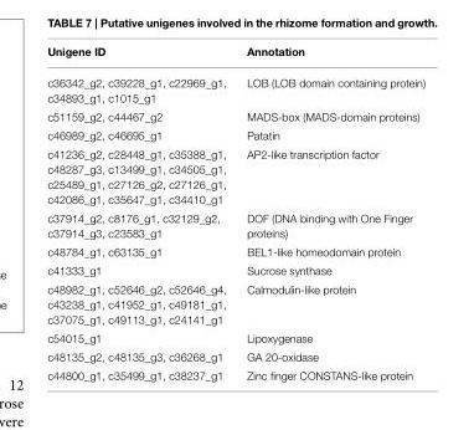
<table><thead><tr><td>Unigene ID</td><td>Annotation</td></tr></thead><tbody><tr><td>c36342_g2, c39228_g1, c22969_g1, c34893_g1, c1015_g1</td><td>LOB (LOB domain containing protein)</td></tr><tr><td>c51159_g2, c44467_g2</td><td>MADS-box (MADS-domain proteins)</td></tr><tr><td>c46989_g2, c46695_g1</td><td>Patatin</td></tr><tr><td>c41236_g2, c28448_g1, c35388_g1, c48287_g3, c13499_g1, c34505_g1, c25489_g1, c27126_g2, c27126_g1, c42086_g1, c35647_g1, c34410_g1</td><td>AP2-like transcription factor</td></tr><tr><td>c37914_g2, c8176_g1, c32129_g2, c37914_g3, c23583_g1</td><td>DOF (DNA binding with One Finger proteins)</td></tr><tr><td>c48784_g1, c63135_g1</td><td>BEL1-like homeodomain protein</td></tr><tr><td>c41333_g1</td><td>Sucrose synthase</td></tr><tr><td>c48982_g1, c52646_g2, c52646_g4, c43238_g1, c41952_g1, c49181_g1, c37075_g1, c49113_g1, c24141_g1</td><td>Calmodulin-like protein</td></tr><tr><td>c54015_g1</td><td>Lipoxygenase</td></tr><tr><td>c48135_g2, c48135_g3, c36268_g1</td><td>GA 20-oxidase</td></tr><tr><td>c44800_g1, c35499_g1, c38237_g1</td><td>Zinc finger CONSTANS-like protein</td></tr></tbody></table>